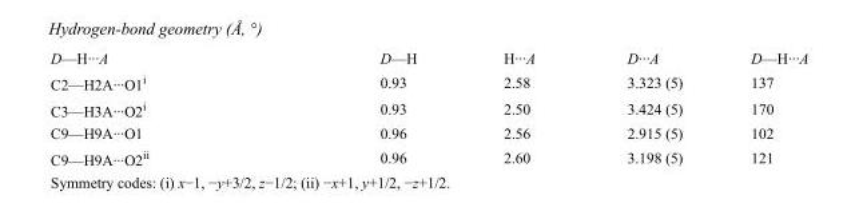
<table><tbody><tr><td>D—H···A</td><td>D—H</td><td>H···A</td><td>D···A</td><td>D—H···A</td></tr><tr><td>C2—H2A···O1<sup>i</sup></td><td>0.93</td><td>2.58</td><td>3.323 (5)</td><td>137</td></tr><tr><td>C3—H3A···O2<sup>i</sup></td><td>0.93</td><td>2.50</td><td>3.424 (5)</td><td>170</td></tr><tr><td>C9—H9A···O1</td><td>0.96</td><td>2.56</td><td>2.915 (5)</td><td>102</td></tr><tr><td>C9—H9A···O2<sup>ii</sup></td><td>0.96</td><td>2.60</td><td>3.198 (5)</td><td>121</td></tr></tbody></table>